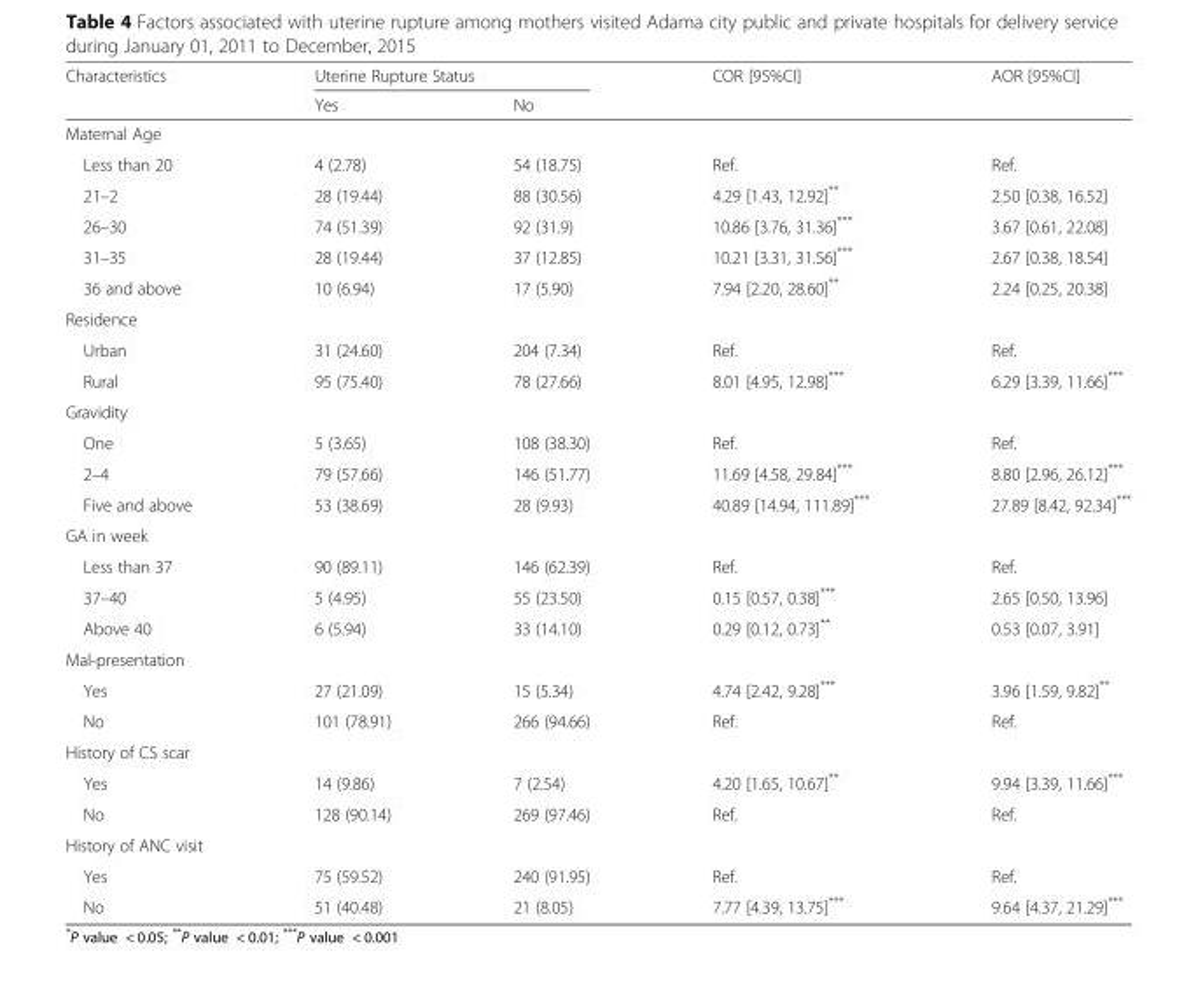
<table><thead><tr><td rowspan="2">Characteristics</td><td colspan="2">Uterine Rupture Status</td><td rowspan="2">COR [95%CI]</td><td rowspan="2">AOR [95%CI]</td></tr><tr><td>Yes</td><td>No</td></tr></thead><tbody><tr><td colspan="5">Maternal Age</td></tr><tr><td>Less than 20</td><td>4 (2.78)</td><td>54 (18.75)</td><td>Ref.</td><td>Ref.</td></tr><tr><td>21–2</td><td>28 (19.44)</td><td>88 (30.56)</td><td>4.29 [1.43, 12.92]**</td><td>2.50 [0.38, 16.52]</td></tr><tr><td>26–30</td><td>74 (51.39)</td><td>92 (31.9)</td><td>10.86 [3.76, 31.36]***</td><td>3.67 [0.61, 22.08]</td></tr><tr><td>31–35</td><td>28 (19.44)</td><td>37 (12.85)</td><td>10.21 [3.31, 31.56]***</td><td>2.67 [0.38, 18.54]</td></tr><tr><td>36 and above</td><td>10 (6.94)</td><td>17 (5.90)</td><td>7.94 [2.20, 28.60]**</td><td>2.24 [0.25, 20.38]</td></tr><tr><td colspan="5">Residence</td></tr><tr><td>Urban</td><td>31 (24.60)</td><td>204 (7.34)</td><td>Ref.</td><td>Ref.</td></tr><tr><td>Rural</td><td>95 (75.40)</td><td>78 (27.66)</td><td>8.01 [4.95, 12.98]***</td><td>6.29 [3.39, 11.66]***</td></tr><tr><td colspan="5">Gravidity</td></tr><tr><td>One</td><td>5 (3.65)</td><td>108 (38.30)</td><td>Ref.</td><td>Ref.</td></tr><tr><td>2–4</td><td>79 (57.66)</td><td>146 (51.77)</td><td>11.69 [4.58, 29.84]***</td><td>8.80 [2.96, 26.12]***</td></tr><tr><td>Five and above</td><td>53 (38.69)</td><td>28 (9.93)</td><td>40.89 [14.94, 111.89]***</td><td>27.89 [8.42, 92.34]***</td></tr><tr><td colspan="5">GA in week</td></tr><tr><td>Less than 37</td><td>90 (89.11)</td><td>146 (62.39)</td><td>Ref.</td><td>Ref.</td></tr><tr><td>37–40</td><td>5 (4.95)</td><td>55 (23.50)</td><td>0.15 [0.57, 0.38]***</td><td>2.65 [0.50, 13.96]</td></tr><tr><td>Above 40</td><td>6 (5.94)</td><td>33 (14.10)</td><td>0.29 [0.12, 0.73]**</td><td>0.53 [0.07, 3.91]</td></tr><tr><td colspan="5">Mal-presentation</td></tr><tr><td>Yes</td><td>27 (21.09)</td><td>15 (5.34)</td><td>4.74 [2.42, 9.28]***</td><td>3.96 [1.59, 9.82]**</td></tr><tr><td>No</td><td>101 (78.91)</td><td>266 (94.66)</td><td>Ref.</td><td>Ref.</td></tr><tr><td colspan="5">History of CS scar</td></tr><tr><td>Yes</td><td>14 (9.86)</td><td>7 (2.54)</td><td>4.20 [1.65, 10.67]**</td><td>9.94 [3.39, 11.66]***</td></tr><tr><td>No</td><td>128 (90.14)</td><td>269 (97.46)</td><td>Ref.</td><td>Ref.</td></tr><tr><td colspan="5">History of ANC visit</td></tr><tr><td>Yes</td><td>75 (59.52)</td><td>240 (91.95)</td><td>Ref.</td><td>Ref.</td></tr><tr><td>No</td><td>51 (40.48)</td><td>21 (8.05)</td><td>7.77 [4.39, 13.75]***</td><td>9.64 [4.37, 21.29]***</td></tr></tbody></table>